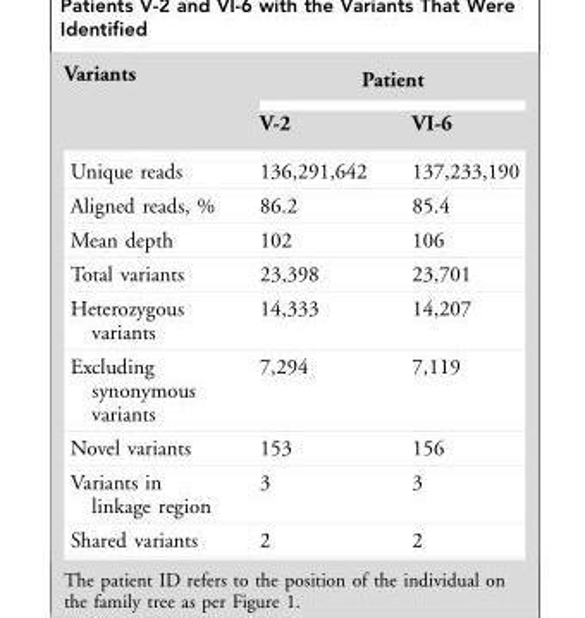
<table><thead><tr><td rowspan="2">Variants</td><td colspan="2">Patient</td></tr><tr><td>V-2</td><td>VI-6</td></tr></thead><tbody><tr><td>Unique reads</td><td>136,291,642</td><td>137,233,190</td></tr><tr><td>Aligned reads, %</td><td>86.2</td><td>85.4</td></tr><tr><td>Mean depth</td><td>102</td><td>106</td></tr><tr><td>Total variants</td><td>23,398</td><td>23,701</td></tr><tr><td>Heterozygous variants</td><td>14,333</td><td>14,207</td></tr><tr><td>Excluding synonymous variants</td><td>7,294</td><td>7,119</td></tr><tr><td>Novel variants</td><td>153</td><td>156</td></tr><tr><td>Variants in linkage region</td><td>3</td><td>3</td></tr><tr><td>Shared variants</td><td>2</td><td>2</td></tr></tbody></table>